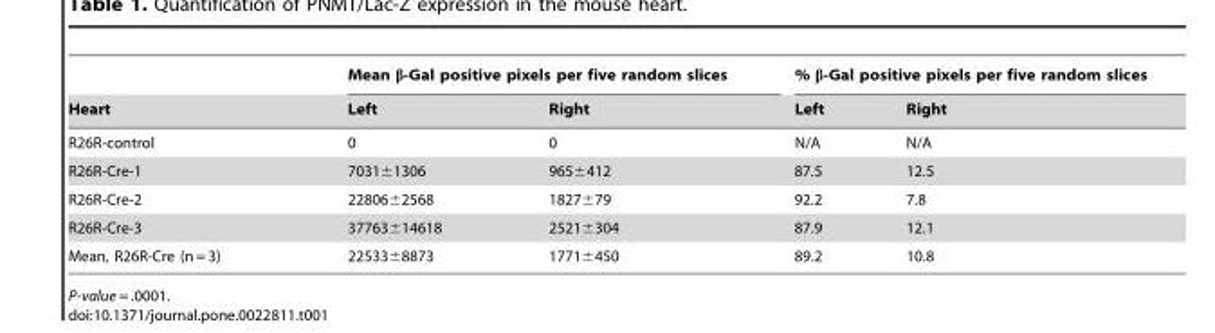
<table><thead><tr><td rowspan="2">Heart</td><td colspan="2">Mean β-Gal positive pixels per five random slices</td><td colspan="2">% β-Gal positive pixels per five random slices</td></tr><tr><td>Left</td><td>Right</td><td>Left</td><td>Right</td></tr></thead><tbody><tr><td>R26R-control</td><td>0</td><td>0</td><td>N/A</td><td>N/A</td></tr><tr><td>R26R-Cre-1</td><td>7031±1306</td><td>965±412</td><td>87.5</td><td>12.5</td></tr><tr><td>R26R-Cre-2</td><td>22806±2568</td><td>1827±79</td><td>92.2</td><td>7.8</td></tr><tr><td>R26R-Cre-3</td><td>37763±14618</td><td>2521±304</td><td>87.9</td><td>12.1</td></tr><tr><td>Mean, R26R-Cre (n = 3)</td><td>22533±8873</td><td>1771±450</td><td>89.2</td><td>10.8</td></tr></tbody></table>